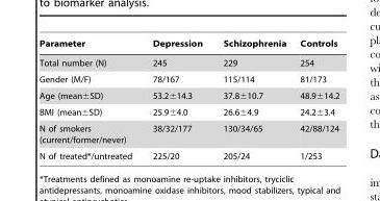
<table><thead><tr><td>Parameter</td><td>Depression</td><td>Schizophrenia</td><td>Controls</td></tr></thead><tbody><tr><td>Total number (N)</td><td>245</td><td>229</td><td>254</td></tr><tr><td>Gender (M/F)</td><td>78/167</td><td>115/114</td><td>81/173</td></tr><tr><td>Age (mean±SD)</td><td>53.2±14.3</td><td>37.8±10.7</td><td>48.9±14.2</td></tr><tr><td>BMI (mean±SD)</td><td>25.9±4.0</td><td>26.6±4.9</td><td>24.2±3.4</td></tr><tr><td>N of smokers (current/former/never)</td><td>38/32/177</td><td>130/34/65</td><td>42/88/124</td></tr><tr><td>N of treated*/untreated</td><td>225/20</td><td>205/24</td><td>1/253</td></tr></tbody></table>